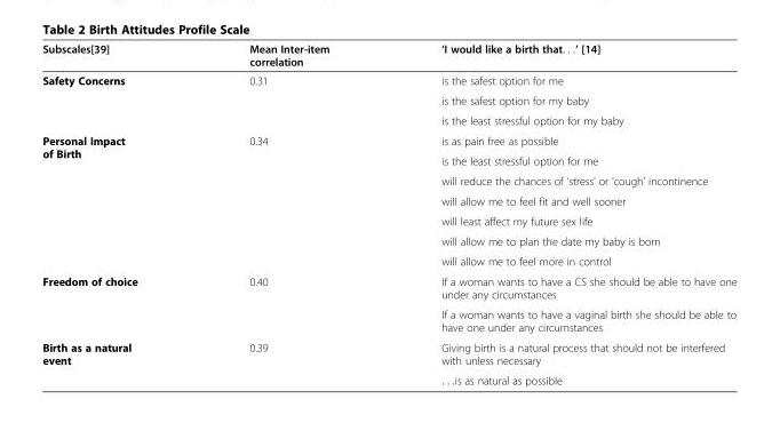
<table><thead><tr><td>Subscales[39]</td><td>Mean Inter-item correlation</td><td>‘I would like a birth that. . .’ [14]</td></tr></thead><tbody><tr><td rowspan="3">Safety Concerns</td><td rowspan="3">0.31</td><td>is the safest option for me</td></tr><tr><td>is the safest option for my baby</td></tr><tr><td>is the least stressful option for my baby</td></tr><tr><td rowspan="7">Personal Impact of Birth</td><td rowspan="7">0.34</td><td>is as pain free as possible</td></tr><tr><td>is the least stressful option for me</td></tr><tr><td>will reduce the chances of ’stress’ or ’cough’ incontinence</td></tr><tr><td>will allow me to feel fit and well sooner</td></tr><tr><td>will least affect my future sex life</td></tr><tr><td>will allow me to plan the date my baby is born</td></tr><tr><td>will allow me to feel more in control</td></tr><tr><td rowspan="2">Freedom of choice</td><td rowspan="2">0.40</td><td>If a woman wants to have a CS she should be able to have one under any circumstances</td></tr><tr><td>If a woman wants to have a vaginal birth she should be able to have one under any circumstances</td></tr><tr><td rowspan="2">Birth as a natural event</td><td rowspan="2">0.39</td><td>Giving birth is a natural process that should not be interfered with unless necessary</td></tr><tr><td>. . .is as natural as possible</td></tr></tbody></table>